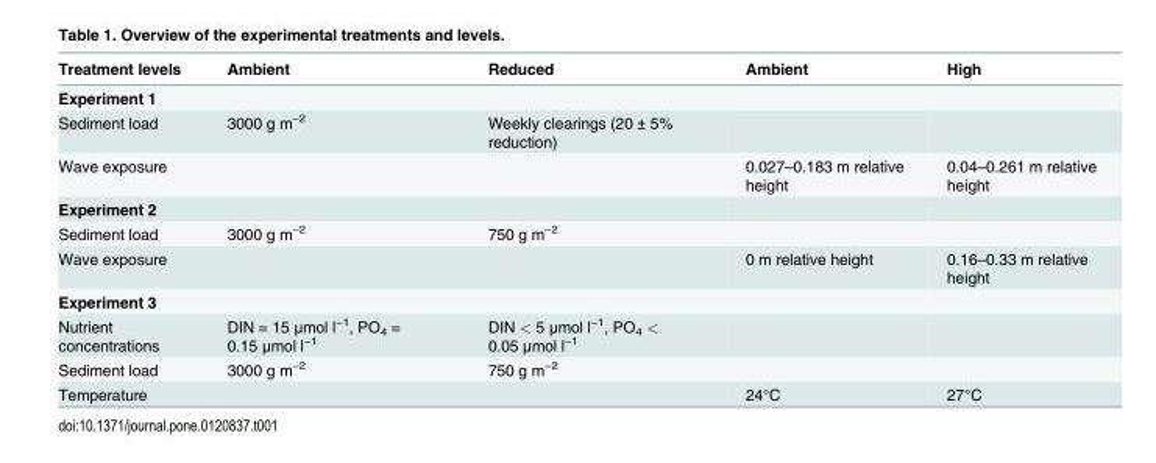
<table><thead><tr><td>Treatment levels</td><td>Ambient</td><td>Reduced</td><td>Ambient</td><td>High</td></tr></thead><tbody><tr><td colspan="5">Experiment 1</td></tr><tr><td>Sediment load</td><td>3000 g m<sup>−2</sup></td><td>Weekly clearings (20 ± 5% reduction)</td><td></td><td></td></tr><tr><td>Wave exposure</td><td></td><td></td><td>0.027–0.183 m relative height</td><td>0.04–0.261 m relative height</td></tr><tr><td colspan="5">Experiment 2</td></tr><tr><td>Sediment load</td><td>3000 g m<sup>−2</sup></td><td>750 g m<sup>−2</sup></td><td></td><td></td></tr><tr><td>Wave exposure</td><td></td><td></td><td>0 m relative height</td><td>0.16–0.33 m relative height</td></tr><tr><td colspan="5">Experiment 3</td></tr><tr><td>Nutrient concentrations</td><td>DIN = 15 μmol l<sup>−1</sup>, PO<sub>4</sub> = 0.15 μmol l<sup>−1</sup></td><td>DIN &lt; 5 μmol l<sup>−1</sup>, PO<sub>4</sub> &lt; 0.05 μmol l<sup>−1</sup></td><td></td><td></td></tr><tr><td>Sediment load</td><td>3000 g m<sup>−2</sup></td><td>750 g m<sup>−2</sup></td><td></td><td></td></tr><tr><td>Temperature</td><td></td><td></td><td>24°C</td><td>27°C</td></tr></tbody></table>